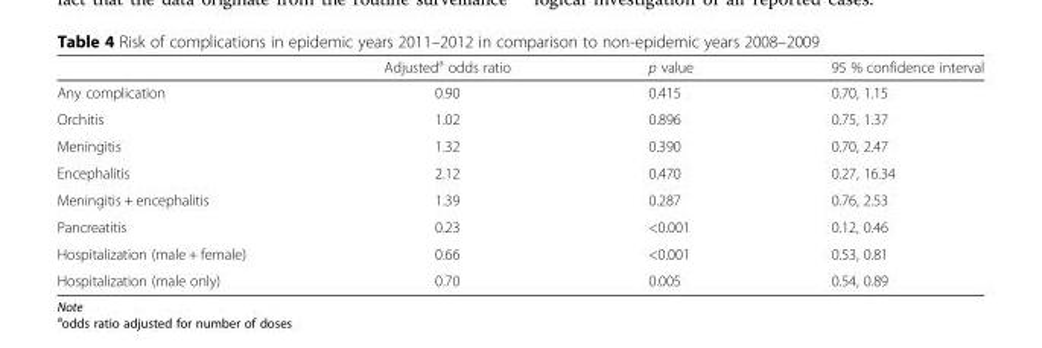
<table><thead><tr><td></td><td>Adjusted<sup>a</sup> odds ratio</td><td>p value</td><td>95 % confidence interval</td></tr></thead><tbody><tr><td>Any complication</td><td>0.90</td><td>0.415</td><td>0.70, 1.15</td></tr><tr><td>Orchitis</td><td>1.02</td><td>0.896</td><td>0.75, 1.37</td></tr><tr><td>Meningitis</td><td>1.32</td><td>0.390</td><td>0.70, 2.47</td></tr><tr><td>Encephalitis</td><td>2.12</td><td>0.470</td><td>0.27, 16.34</td></tr><tr><td>Meningitis + encephalitis</td><td>1.39</td><td>0.287</td><td>0.76, 2.53</td></tr><tr><td>Pancreatitis</td><td>0.23</td><td>&lt;0.001</td><td>0.12, 0.46</td></tr><tr><td>Hospitalization (male + female)</td><td>0.66</td><td>&lt;0.001</td><td>0.53, 0.81</td></tr><tr><td>Hospitalization (male only)</td><td>0.70</td><td>0.005</td><td>0.54, 0.89</td></tr></tbody></table>